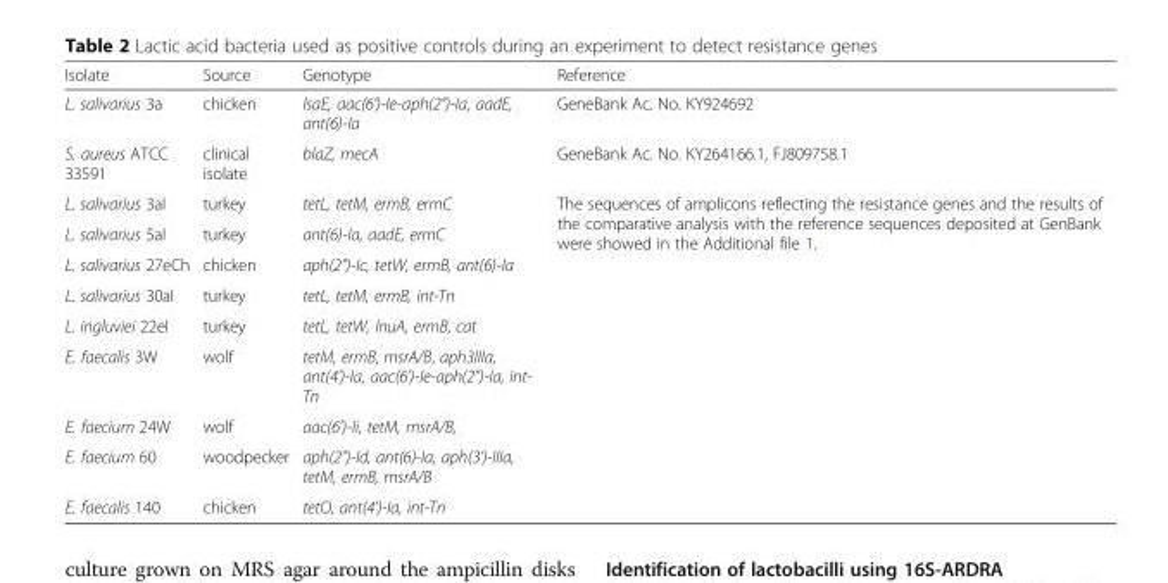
<table><thead><tr><td>Isolate</td><td>Source</td><td>Genotype</td><td>Reference</td></tr></thead><tbody><tr><td>L. salivarius 3a</td><td>chicken</td><td>lsaE, aac(6’)-Ie-aph(2”)-Ia, aadE, ant(6)-Ia</td><td>GeneBank Ac. No. KY924692</td></tr><tr><td>S. aureus ATCC 33591</td><td>clinical isolate</td><td>blaZ, mecA</td><td>GeneBank Ac. No. KY264166.1, FJ809758.1</td></tr><tr><td>L. salivarius 3aI</td><td>turkey</td><td>tetL, tetM, ermB, ermC</td><td rowspan="9">The sequences of amplicons reflecting the resistance genes and the results of the comparative analysis with the reference sequences deposited at GenBank were showed in the Additional file 1.</td></tr><tr><td>L. salivarius 5aI</td><td>turkey</td><td>ant(6)-Ia, aadE, ermC</td></tr><tr><td>L. salivarius 27eCh</td><td>chicken</td><td>aph(2”)-Ic, tetW, ermB, ant(6)-Ia</td></tr><tr><td>L. salivarius 30aI</td><td>turkey</td><td>tetL, tetM, ermB, int-Tn</td></tr><tr><td>L. ingluviei 22eI</td><td>turkey</td><td>tetL, tetW, lnuA, ermB, cat</td></tr><tr><td>E. faecalis 3W</td><td>wolf</td><td>tetM, ermB, msrA/B, aph3IIIa, ant(4’)-Ia, aac(6’)-Ie-aph(2”)-Ia, int- Tn</td></tr><tr><td>E. faecium 24W</td><td>wolf</td><td>aac(6’)-Ii, tetM, msrA/B,</td></tr><tr><td>E. faecium 60</td><td>woodpecker</td><td>aph(2”)-Id, ant(6)-Ia, aph(3’)-IIIa, tetM, ermB, msrA/B</td></tr><tr><td>E. faecalis 140</td><td>chicken</td><td>tetO, ant(4&#x27;)-Ia, int-Tn</td></tr></tbody></table>